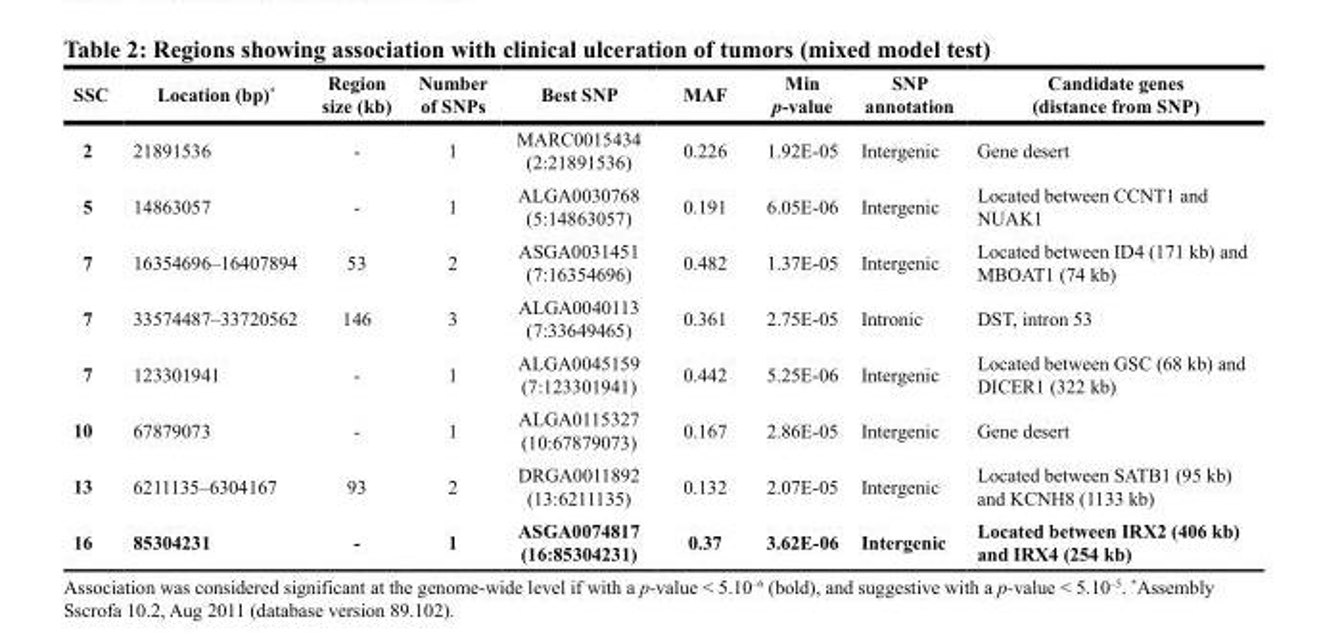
<table><thead><tr><td>SSC</td><td>Location (bp)*</td><td>Region size (kb)</td><td>Number of SNPs</td><td>Best SNP</td><td>MAF</td><td>Min p-value</td><td>SNP annotation</td><td>Candidate genes (distance from SNP)</td></tr></thead><tbody><tr><td>2</td><td>21891536</td><td>-</td><td>1</td><td>MARC0015434 (2:21891536)</td><td>0.226</td><td>1.92E-05</td><td>Intergenic</td><td>Gene desert</td></tr><tr><td>5</td><td>14863057</td><td>-</td><td>1</td><td>ALGA0030768 (5:14863057)</td><td>0.191</td><td>6.05E-06</td><td>Intergenic</td><td>Located between CCNT1 and NUAK1</td></tr><tr><td>7</td><td>16354696–16407894</td><td>53</td><td>2</td><td>ASGA0031451 (7:16354696)</td><td>0.482</td><td>1.37E-05</td><td>Intergenic</td><td>Located between ID4 (171 kb) and MBOAT1 (74 kb)</td></tr><tr><td>7</td><td>33574487–33720562</td><td>146</td><td>3</td><td>ALGA0040113 (7:33649465)</td><td>0.361</td><td>2.75E-05</td><td>Intronic</td><td>DST, intron 53</td></tr><tr><td>7</td><td>123301941</td><td>-</td><td>1</td><td>ALGA0045159 (7:123301941)</td><td>0.442</td><td>5.25E-06</td><td>Intergenic</td><td>Located between GSC (68 kb) and DICER1 (322 kb)</td></tr><tr><td>10</td><td>67879073</td><td>-</td><td>1</td><td>ALGA0115327 (10:67879073)</td><td>0.167</td><td>2.86E-05</td><td>Intergenic</td><td>Gene desert</td></tr><tr><td>13</td><td>6211135–6304167</td><td>93</td><td>2</td><td>DRGA0011892 (13:6211135)</td><td>0.132</td><td>2.07E-05</td><td>Intergenic</td><td>Located between SATB1 (95 kb) and KCNH8 (1133 kb)</td></tr><tr><td>16</td><td>85304231</td><td>-</td><td>1</td><td>ASGA0074817 (16:85304231)</td><td>0.37</td><td>3.62E-06</td><td>Intergenic</td><td>Located between IRX2 (406 kb) and IRX4 (254 kb)</td></tr></tbody></table>